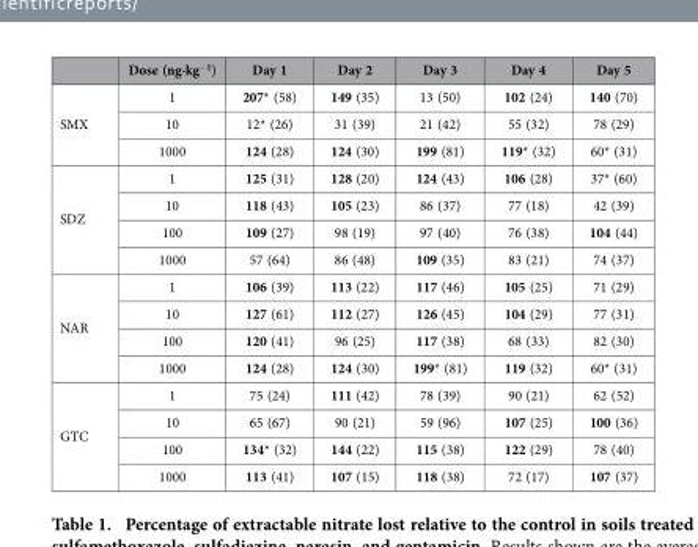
<table><thead><tr><td></td><td>Dose (ng·kg<sup>−1</sup>)</td><td>Day 1</td><td>Day 2</td><td>Day 3</td><td>Day 4</td><td>Day 5</td></tr></thead><tbody><tr><td rowspan="3">SMX</td><td>1</td><td>207* (58)</td><td>149 (35)</td><td>13 (50)</td><td>102 (24)</td><td>140 (70)</td></tr><tr><td>10</td><td>12* (26)</td><td>31 (39)</td><td>21 (42)</td><td>55 (32)</td><td>78 (29)</td></tr><tr><td>1000</td><td>124 (28)</td><td>124 (30)</td><td>199 (81)</td><td>119* (32)</td><td>60* (31)</td></tr><tr><td rowspan="4">SDZ</td><td>1</td><td>125 (31)</td><td>128 (20)</td><td>124 (43)</td><td>106 (28)</td><td>37* (60)</td></tr><tr><td>10</td><td>118 (43)</td><td>105 (23)</td><td>86 (37)</td><td>77 (18)</td><td>42 (39)</td></tr><tr><td>100</td><td>109 (27)</td><td>98 (19)</td><td>97 (40)</td><td>76 (38)</td><td>104 (44)</td></tr><tr><td>1000</td><td>57 (64)</td><td>86 (48)</td><td>109 (35)</td><td>83 (21)</td><td>74 (37)</td></tr><tr><td rowspan="4">NAR</td><td>1</td><td>106 (39)</td><td>113 (22)</td><td>117 (46)</td><td>105 (25)</td><td>71 (29)</td></tr><tr><td>10</td><td>127 (61)</td><td>112 (27)</td><td>126 (45)</td><td>104 (29)</td><td>77 (31)</td></tr><tr><td>100</td><td>120 (41)</td><td>96 (25)</td><td>117 (38)</td><td>68 (33)</td><td>82 (30)</td></tr><tr><td>1000</td><td>124 (28)</td><td>124 (30)</td><td>199* (81)</td><td>119 (32)</td><td>60* (31)</td></tr><tr><td rowspan="4">GTC</td><td>1</td><td>75 (24)</td><td>111 (42)</td><td>78 (39)</td><td>90 (21)</td><td>62 (52)</td></tr><tr><td>10</td><td>65 (67)</td><td>90 (21)</td><td>59 (96)</td><td>107 (25)</td><td>100 (36)</td></tr><tr><td>100</td><td>134* (32)</td><td>144 (22)</td><td>115 (38)</td><td>122 (29)</td><td>78 (40)</td></tr><tr><td>1000</td><td>113 (41)</td><td>107 (15)</td><td>118 (38)</td><td>72 (17)</td><td>107 (37)</td></tr></tbody></table>